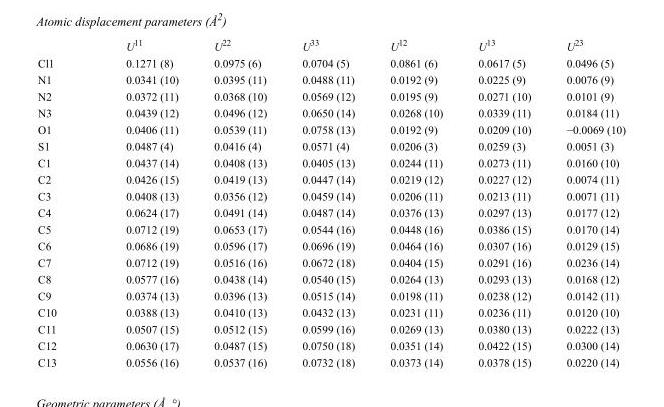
<table><thead><tr><td></td><td>U<sup>11</sup></td><td>U<sup>22</sup></td><td>U<sup>33</sup></td><td>U<sup>12</sup></td><td>U<sup>13</sup></td><td>U<sup>23</sup></td></tr></thead><tbody><tr><td>Cl1</td><td>0.1271 (8)</td><td>0.0975 (6)</td><td>0.0704 (5)</td><td>0.0861 (6)</td><td>0.0617 (5)</td><td>0.0496 (5)</td></tr><tr><td>N1</td><td>0.0341 (10)</td><td>0.0395 (11)</td><td>0.0488 (11)</td><td>0.0192 (9)</td><td>0.0225 (9)</td><td>0.0076 (9)</td></tr><tr><td>N2</td><td>0.0372 (11)</td><td>0.0368 (10)</td><td>0.0569 (12)</td><td>0.0195 (9)</td><td>0.0271 (10)</td><td>0.0101 (9)</td></tr><tr><td>N3</td><td>0.0439 (12)</td><td>0.0496 (12)</td><td>0.0650 (14)</td><td>0.0268 (10)</td><td>0.0339 (11)</td><td>0.0184 (11)</td></tr><tr><td>O1</td><td>0.0406 (11)</td><td>0.0539 (11)</td><td>0.0758 (13)</td><td>0.0192 (9)</td><td>0.0209 (10)</td><td>−0.0069 (10)</td></tr><tr><td>S1</td><td>0.0487 (4)</td><td>0.0416 (4)</td><td>0.0571 (4)</td><td>0.0206 (3)</td><td>0.0259 (3)</td><td>0.0051 (3)</td></tr><tr><td>C1</td><td>0.0437 (14)</td><td>0.0408 (13)</td><td>0.0405 (13)</td><td>0.0244 (11)</td><td>0.0273 (11)</td><td>0.0160 (10)</td></tr><tr><td>C2</td><td>0.0426 (15)</td><td>0.0419 (13)</td><td>0.0447 (14)</td><td>0.0219 (12)</td><td>0.0227 (12)</td><td>0.0074 (11)</td></tr><tr><td>C3</td><td>0.0408 (13)</td><td>0.0356 (12)</td><td>0.0459 (14)</td><td>0.0206 (11)</td><td>0.0213 (11)</td><td>0.0071 (11)</td></tr><tr><td>C4</td><td>0.0624 (17)</td><td>0.0491 (14)</td><td>0.0487 (14)</td><td>0.0376 (13)</td><td>0.0297 (13)</td><td>0.0177 (12)</td></tr><tr><td>C5</td><td>0.0712 (19)</td><td>0.0653 (17)</td><td>0.0544 (16)</td><td>0.0448 (16)</td><td>0.0386 (15)</td><td>0.0170 (14)</td></tr><tr><td>C6</td><td>0.0686 (19)</td><td>0.0596 (17)</td><td>0.0696 (19)</td><td>0.0464 (16)</td><td>0.0307 (16)</td><td>0.0129 (15)</td></tr><tr><td>C7</td><td>0.0712 (19)</td><td>0.0516 (16)</td><td>0.0672 (18)</td><td>0.0404 (15)</td><td>0.0291 (16)</td><td>0.0236 (14)</td></tr><tr><td>C8</td><td>0.0577 (16)</td><td>0.0438 (14)</td><td>0.0540 (15)</td><td>0.0264 (13)</td><td>0.0293 (13)</td><td>0.0168 (12)</td></tr><tr><td>C9</td><td>0.0374 (13)</td><td>0.0396 (13)</td><td>0.0515 (14)</td><td>0.0198 (11)</td><td>0.0238 (12)</td><td>0.0142 (11)</td></tr><tr><td>C10</td><td>0.0388 (13)</td><td>0.0410 (13)</td><td>0.0432 (13)</td><td>0.0231 (11)</td><td>0.0236 (11)</td><td>0.0120 (10)</td></tr><tr><td>C11</td><td>0.0507 (15)</td><td>0.0512 (15)</td><td>0.0599 (16)</td><td>0.0269 (13)</td><td>0.0380 (13)</td><td>0.0222 (13)</td></tr><tr><td>C12</td><td>0.0630 (17)</td><td>0.0487 (15)</td><td>0.0750 (18)</td><td>0.0351 (14)</td><td>0.0422 (15)</td><td>0.0300 (14)</td></tr><tr><td>C13</td><td>0.0556 (16)</td><td>0.0537 (16)</td><td>0.0732 (18)</td><td>0.0373 (14)</td><td>0.0378 (15)</td><td>0.0220 (14)</td></tr></tbody></table>